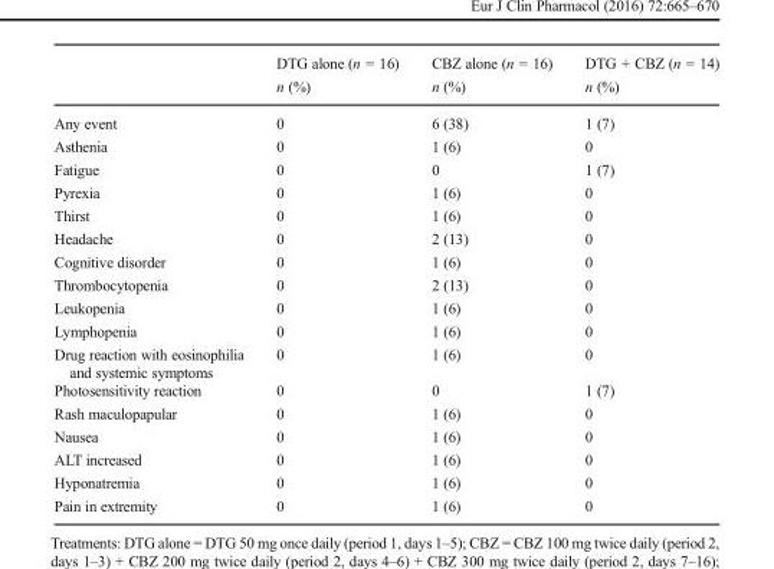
<table><thead><tr><td></td><td>DTG alone (n = 16) n (%)</td><td>CBZ alone (n = 16) n (%)</td><td>DTG + CBZ (n = 14) n (%)</td></tr></thead><tbody><tr><td>Any event</td><td>0</td><td>6 (38)</td><td>1 (7)</td></tr><tr><td>Asthenia</td><td>0</td><td>1 (6)</td><td>0</td></tr><tr><td>Fatigue</td><td>0</td><td>0</td><td>1 (7)</td></tr><tr><td>Pyrexia</td><td>0</td><td>1 (6)</td><td>0</td></tr><tr><td>Thirst</td><td>0</td><td>1 (6)</td><td>0</td></tr><tr><td>Headache</td><td>0</td><td>2 (13)</td><td>0</td></tr><tr><td>Cognitive disorder</td><td>0</td><td>1 (6)</td><td>0</td></tr><tr><td>Thrombocytopenia</td><td>0</td><td>2 (13)</td><td>0</td></tr><tr><td>Leukopenia</td><td>0</td><td>1 (6)</td><td>0</td></tr><tr><td>Lymphopenia</td><td>0</td><td>1 (6)</td><td>0</td></tr><tr><td>Drug reaction with eosinophilia and systemic symptoms</td><td>0</td><td>1 (6)</td><td>0</td></tr><tr><td>Photosensitivity reaction</td><td>0</td><td>0</td><td>1 (7)</td></tr><tr><td>Rash maculopapular</td><td>0</td><td>1 (6)</td><td>0</td></tr><tr><td>Nausea</td><td>0</td><td>1 (6)</td><td>0</td></tr><tr><td>ALT increased</td><td>0</td><td>1 (6)</td><td>0</td></tr><tr><td>Hyponatremia</td><td>0</td><td>1 (6)</td><td>0</td></tr><tr><td>Pain in extremity</td><td>0</td><td>1 (6)</td><td>0</td></tr></tbody></table>